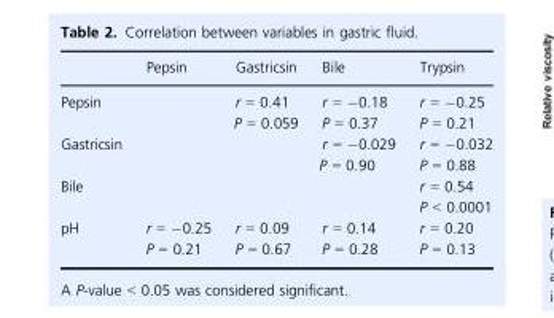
<table><thead><tr><td></td><td>Pepsin</td><td>Gastricsin</td><td>Bile</td><td>Trypsin</td></tr></thead><tbody><tr><td>Pepsin</td><td></td><td>r = 0.41 P = 0.059</td><td>r = −0.18 P = 0.37</td><td>r = −0.25 P = 0.21</td></tr><tr><td>Gastricsin</td><td></td><td></td><td>r = −0.029 P = 0.90</td><td>r = −0.032 P = 0.88</td></tr><tr><td>Bile</td><td></td><td></td><td></td><td>r = 0.54 P &lt; 0.0001</td></tr><tr><td>pH</td><td>r = −0.25 P = 0.21</td><td>r = 0.09 P = 0.67</td><td>r = 0.14 P = 0.28</td><td>r = 0.20 P = 0.13</td></tr></tbody></table>